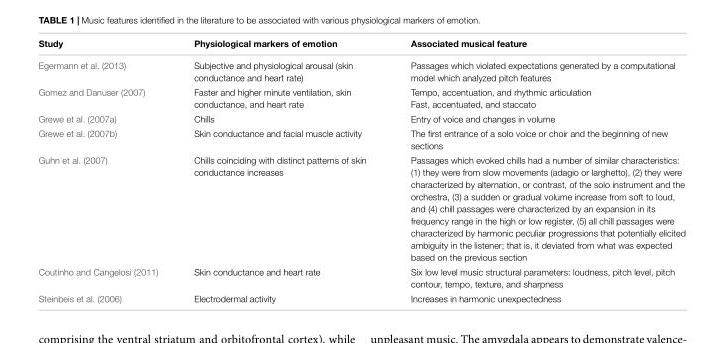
<table><thead><tr><td>Study</td><td>Physiological markers of emotion</td><td>Associated musical feature</td></tr></thead><tbody><tr><td>Egermann et al. (2013)</td><td>Subjective and physiological arousal (skin conductance and heart rate)</td><td>Passages which violated expectations generated by a computational model which analyzed pitch features</td></tr><tr><td>Gomez and Danuser (2007)</td><td>Faster and higher minute ventilation, skin conductance, and heart rate</td><td>Tempo, accentuation, and rhythmic articulation Fast, accentuated, and staccato</td></tr><tr><td>Grewe et al. (2007a)</td><td>Chills</td><td>Entry of voice and changes in volume</td></tr><tr><td>Grewe et al. (2007b)</td><td>Skin conductance and facial muscle activity</td><td>The first entrance of a solo voice or choir and the beginning of new sections</td></tr><tr><td>Guhn et al. (2007)</td><td>Chills coinciding with distinct patterns of skin conductance increases</td><td>Passages which evoked chills had a number of similar characteristics: (1) they were from slow movements (adagio or larghetto), (2) they were characterized by alternation, or contrast, of the solo instrument and the orchestra, (3) a sudden or gradual volume increase from soft to loud, and (4) chill passages were characterized by an expansion in its frequency range in the high or low register, (5) all chill passages were characterized by harmonic peculiar progressions that potentially elicited ambiguity in the listener; that is, it deviated from what was expected based on the previous section</td></tr><tr><td>Coutinho and Cangelosi (2011)</td><td>Skin conductance and heart rate</td><td>Six low level music structural parameters: loudness, pitch level, pitch contour, tempo, texture, and sharpness</td></tr><tr><td>Steinbeis et al. (2006)</td><td>Electrodermal activity</td><td>Increases in harmonic unexpectedness</td></tr></tbody></table>